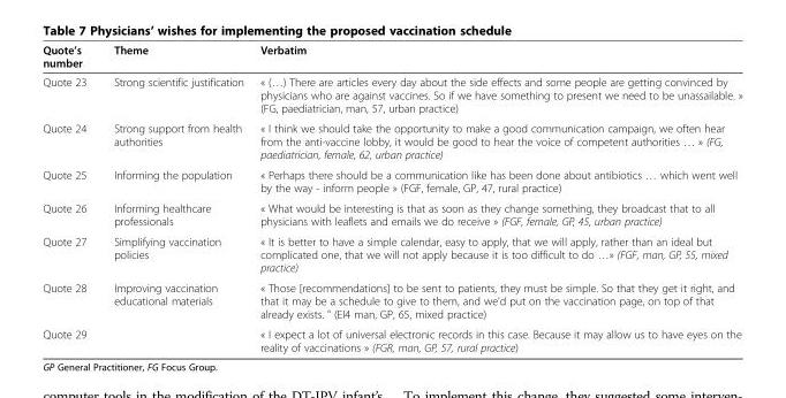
<table><thead><tr><td>Quote’s number</td><td>Theme</td><td>Verbatim</td></tr></thead><tbody><tr><td>Quote 23</td><td>Strong scientific justification</td><td>« (…) There are articles every day about the side effects and some people are getting convinced by physicians who are against vaccines. So if we have something to present we need to be unassailable. » (FG, paediatrician, man, 57, urban practice)</td></tr><tr><td>Quote 24</td><td>Strong support from health authorities</td><td>« I think we should take the opportunity to make a good communication campaign, we often hear from the anti-vaccine lobby, it would be good to hear the voice of competent authorities … » (FG, paediatrician, female, 62, urban practice)</td></tr><tr><td>Quote 25</td><td>Informing the population</td><td>« Perhaps there should be a communication like has been done about antibiotics … which went well by the way - inform people » (FGF, female, GP, 47, rural practice)</td></tr><tr><td>Quote 26</td><td>Informing healthcare professionals</td><td>« What would be interesting is that as soon as they change something, they broadcast that to all physicians with leaflets and emails we do receive » (FGF, female, GP, 45, urban practice)</td></tr><tr><td>Quote 27</td><td>Simplifying vaccination policies</td><td>« It is better to have a simple calendar, easy to apply, that we will apply, rather than an ideal but complicated one, that we will not apply because it is too difficult to do …» (FGF, man, GP, 55, mixed practice)</td></tr><tr><td>Quote 28</td><td>Improving vaccination educational materials</td><td>« Those [recommendations] to be sent to patients, they must be simple. So that they get it right, and that it may be a schedule to give to them, and we&#x27;d put on the vaccination page, on top of that already exists. &quot; (EI4 man, GP, 65, mixed practice)</td></tr><tr><td>Quote 29</td><td></td><td>« I expect a lot of universal electronic records in this case. Because it may allow us to have eyes on the reality of vaccinations » (FGR, man, GP, 57, rural practice)</td></tr></tbody></table>